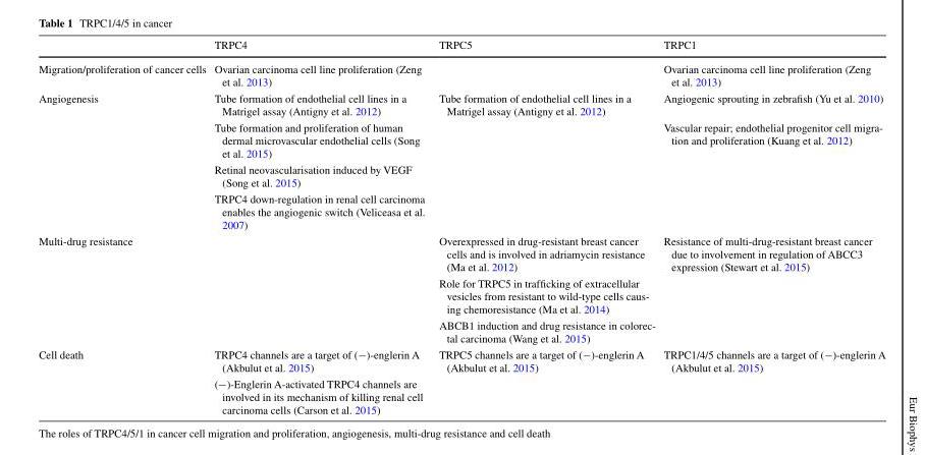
<table><thead><tr><td></td><td>TRPC4</td><td>TRPC5</td><td>TRPC1</td></tr></thead><tbody><tr><td>Migration/proliferation of cancer cells</td><td>Ovarian carcinoma cell line proliferation (Zeng et al. 2013)</td><td></td><td>Ovarian carcinoma cell line proliferation (Zeng et al. 2013)</td></tr><tr><td rowspan="4">Angiogenesis</td><td>Tube formation of endothelial cell lines in a Matrigel assay (Antigny et al. 2012)</td><td>Tube formation of endothelial cell lines in a Matrigel assay (Antigny et al. 2012)</td><td>Angiogenic sprouting in zebrafish (Yu et al. 2010)</td></tr><tr><td>Tube formation and proliferation of human dermal microvascular endothelial cells (Song et al. 2015)</td><td></td><td>Vascular repair; endothelial progenitor cell migra- tion and proliferation (Kuang et al. 2012)</td></tr><tr><td>Retinal neovascularisation induced by VEGF (Song et al. 2015)</td><td></td><td></td></tr><tr><td>TRPC4 down-regulation in renal cell carcinoma enables the angiogenic switch (Veliceasa et al. 2007)</td><td></td><td></td></tr><tr><td rowspan="3">Multi-drug resistance</td><td></td><td>Overexpressed in drug-resistant breast cancer cells and is involved in adriamycin resistance (Ma et al. 2012)</td><td>Resistance of multi-drug-resistant breast cancer due to involvement in regulation of ABCC3 expression (Stewart et al. 2015)</td></tr><tr><td></td><td>Role for TRPC5 in trafficking of extracellular vesicles from resistant to wild-type cells caus- ing chemoresistance (Ma et al. 2014)</td><td></td></tr><tr><td></td><td>ABCB1 induction and drug resistance in colorec- tal carcinoma (Wang et al. 2015)</td><td></td></tr><tr><td rowspan="2">Cell death</td><td>TRPC4 channels are a target of (−)-englerin A (Akbulut et al. 2015)</td><td>TRPC5 channels are a target of (−)-englerin A (Akbulut et al. 2015)</td><td>TRPC1/4/5 channels are a target of (−)-englerin A (Akbulut et al. 2015)</td></tr><tr><td>(−)-Englerin A-activated TRPC4 channels are involved in its mechanism of killing renal cell carcinoma cells (Carson et al. 2015)</td><td></td><td></td></tr></tbody></table>